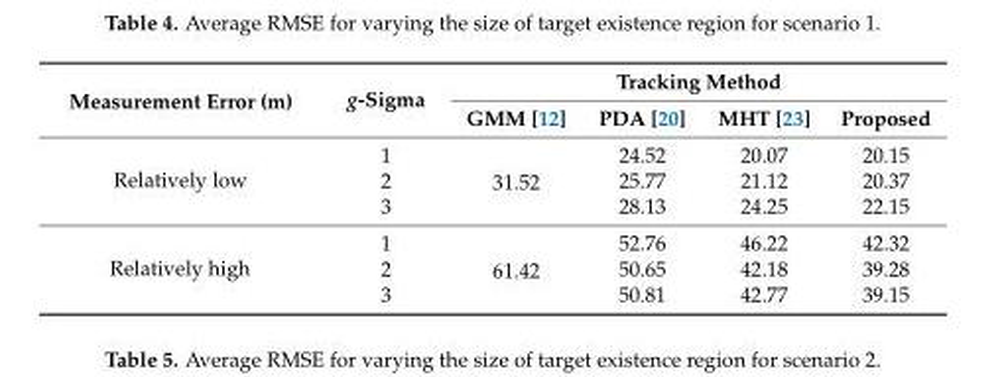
<table><thead><tr><td rowspan="2">Measurement Error (m)</td><td rowspan="2">g-Sigma</td><td colspan="4">Tracking Method</td></tr><tr><td>GMM [12]</td><td>PDA [20]</td><td>MHT [23]</td><td>Proposed</td></tr></thead><tbody><tr><td rowspan="3">Relatively low</td><td>1</td><td rowspan="3">31.52</td><td>24.52</td><td>20.07</td><td>20.15</td></tr><tr><td>2</td><td>25.77</td><td>21.12</td><td>20.37</td></tr><tr><td>3</td><td>28.13</td><td>24.25</td><td>22.15</td></tr><tr><td rowspan="3">Relatively high</td><td>1</td><td rowspan="3">61.42</td><td>52.76</td><td>46.22</td><td>42.32</td></tr><tr><td>2</td><td>50.65</td><td>42.18</td><td>39.28</td></tr><tr><td>3</td><td>50.81</td><td>42.77</td><td>39.15</td></tr></tbody></table>